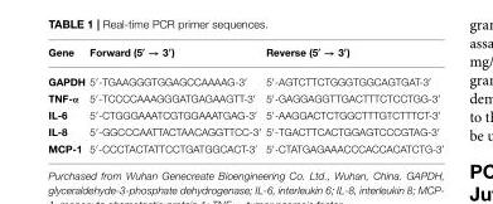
<table><thead><tr><td>Gene</td><td>Forward (5′ → 3′)</td><td>Reverse (5′ → 3′)</td></tr></thead><tbody><tr><td>GAPDH</td><td>5′-TGAAGGGTGGAGCCAAAAG-3′</td><td>5′-AGTCTTCTGGGTGGCAGTGAT-3′</td></tr><tr><td>TNF-α</td><td>5′-TCCCCAAAGGGATGAGAAGTT-3′</td><td>5′-GAGGAGGTTGACTTTCTCCTGG-3′</td></tr><tr><td>IL-6</td><td>5′-CTGGGAAATCGTGGAAATGAG-3′</td><td>5′-AAGGACTCTGGCTTTGTCTTTCT-3′</td></tr><tr><td>IL-8</td><td>5′-GGCCCAATTACTAACAGGTTCC-3′</td><td>5′-TGACTTCACTGGAGTCCCGTAG-3′</td></tr><tr><td>MCP-1</td><td>5′-CCCTACTATTCCTGATGGCACT-3′</td><td>5′-CTATGAGAAACCCACCACATCTG-3′</td></tr></tbody></table>